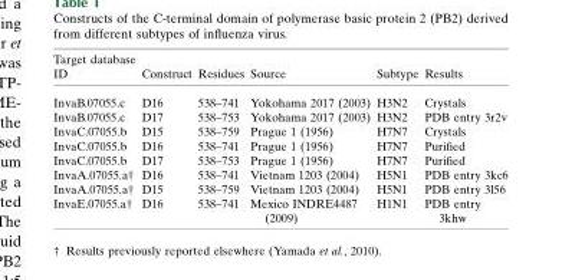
<table><thead><tr><td>Target database ID</td><td>Construct</td><td>Residues</td><td>Source</td><td>Subtype</td><td>Results</td></tr></thead><tbody><tr><td>InvaB.07055.c</td><td>D16</td><td>538–741</td><td>Yokohama 2017 (2003)</td><td>H3N2</td><td>Crystals</td></tr><tr><td>InvaB.07055.c</td><td>D17</td><td>538–753</td><td>Yokohama 2017 (2003)</td><td>H3N2</td><td>PDB entry 3r2v</td></tr><tr><td>InvaC.07055.b</td><td>D15</td><td>538–759</td><td>Prague 1 (1956)</td><td>H7N7</td><td>Crystals</td></tr><tr><td>InvaC.07055.b</td><td>D16</td><td>538–741</td><td>Prague 1 (1956)</td><td>H7N7</td><td>Purified</td></tr><tr><td>InvaC.07055.b</td><td>D17</td><td>538–753</td><td>Prague 1 (1956)</td><td>H7N7</td><td>Purified</td></tr><tr><td>InvaA.07055.a†</td><td>D16</td><td>538–741</td><td>Vietnam 1203 (2004)</td><td>H5N1</td><td>PDB entry 3kc6</td></tr><tr><td>InvaA.07055.a†</td><td>D15</td><td>538–759</td><td>Vietnam 1203 (2004)</td><td>H5N1</td><td>PDB entry 3l56</td></tr><tr><td>InvaE.07055.a†</td><td>D16</td><td>538–741</td><td>Mexico INDRE4487 (2009)</td><td>H1N1</td><td>PDB entry 3khw</td></tr></tbody></table>